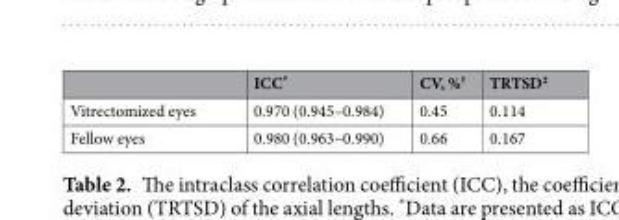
<table><thead><tr><td></td><td>ICC*</td><td>CV, %<sup>†</sup></td><td>TRTSD<sup>‡</sup></td></tr></thead><tbody><tr><td>Vitrectomized eyes</td><td>0.970 (0.945–0.984)</td><td>0.45</td><td>0.114</td></tr><tr><td>Fellow eyes</td><td>0.980 (0.963–0.990)</td><td>0.66</td><td>0.167</td></tr></tbody></table>